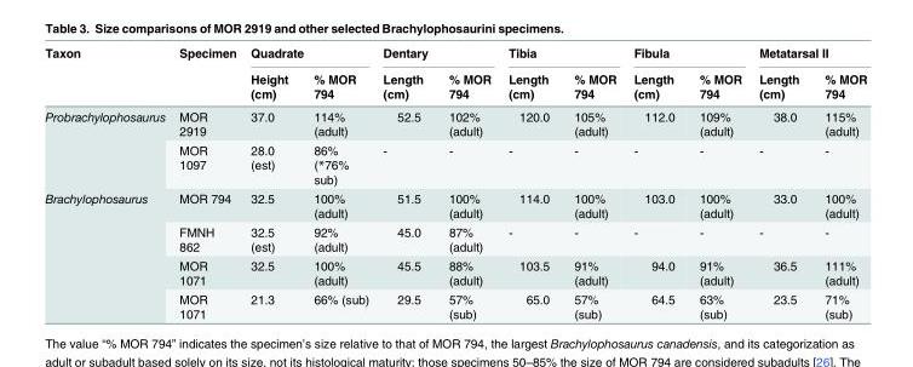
<table><thead><tr><td rowspan="2">Taxon</td><td rowspan="2">Specimen</td><td colspan="2">Quadrate</td><td colspan="2">Dentary</td><td colspan="2">Tibia</td><td colspan="2">Fibula</td><td colspan="2">Metatarsal II</td></tr><tr><td>Height (cm)</td><td>% MOR 794</td><td>Length (cm)</td><td>% MOR 794</td><td>Length (cm)</td><td>% MOR 794</td><td>Length (cm)</td><td>% MOR 794</td><td>Length (cm)</td><td>% MOR 794</td></tr></thead><tbody><tr><td rowspan="2">Probrachylophosaurus</td><td>MOR 2919</td><td>37.0</td><td>114% (adult)</td><td>52.5</td><td>102% (adult)</td><td>120.0</td><td>105% (adult)</td><td>112.0</td><td>109% (adult)</td><td>38.0</td><td>115% (adult)</td></tr><tr><td>MOR 1097</td><td>28.0 (est)</td><td>86% (*76% sub)</td><td>-</td><td>-</td><td>-</td><td>-</td><td>-</td><td>-</td><td>-</td><td>-</td></tr><tr><td rowspan="4">Brachylophosaurus</td><td>MOR 794</td><td>32.5</td><td>100% (adult)</td><td>51.5</td><td>100% (adult)</td><td>114.0</td><td>100% (adult)</td><td>103.0</td><td>100% (adult)</td><td>33.0</td><td>100% (adult)</td></tr><tr><td>FMNH 862</td><td>32.5 (est)</td><td>92% (adult)</td><td>45.0</td><td>87% (adult)</td><td>-</td><td>-</td><td>-</td><td>-</td><td>-</td><td>-</td></tr><tr><td>MOR 1071</td><td>32.5</td><td>100% (adult)</td><td>45.5</td><td>88% (adult)</td><td>103.5</td><td>91% (adult)</td><td>94.0</td><td>91% (adult)</td><td>36.5</td><td>111% (adult)</td></tr><tr><td>MOR 1071</td><td>21.3</td><td>66% (sub)</td><td>29.5</td><td>57% (sub)</td><td>65.0</td><td>57% (sub)</td><td>64.5</td><td>63% (sub)</td><td>23.5</td><td>71% (sub)</td></tr></tbody></table>